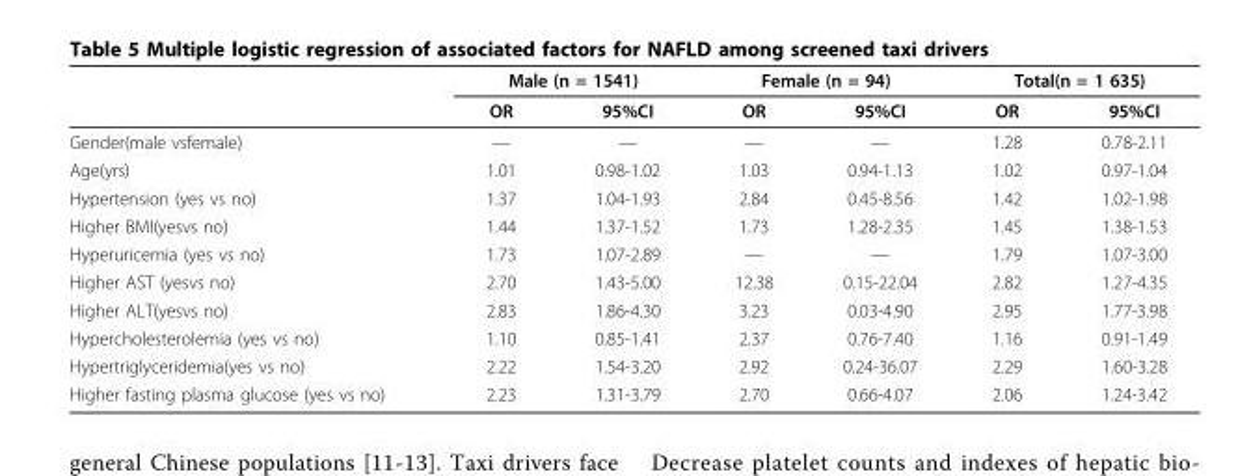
<table><thead><tr><td rowspan="2"></td><td colspan="2">Male (n = 1541)</td><td colspan="2">Female (n = 94)</td><td colspan="2">Total(n = 1 635)</td></tr><tr><td>OR</td><td>95%CI</td><td>OR</td><td>95%CI</td><td>OR</td><td>95%CI</td></tr></thead><tbody><tr><td>Gender(male vsfemale)</td><td>—</td><td>—</td><td>—</td><td>—</td><td>1.28</td><td>0.78-2.11</td></tr><tr><td>Age(yrs)</td><td>1.01</td><td>0.98-1.02</td><td>1.03</td><td>0.94-1.13</td><td>1.02</td><td>0.97-1.04</td></tr><tr><td>Hypertension (yes vs no)</td><td>1.37</td><td>1.04-1.93</td><td>2.84</td><td>0.45-8.56</td><td>1.42</td><td>1.02-1.98</td></tr><tr><td>Higher BMI(yesvs no)</td><td>1.44</td><td>1.37-1.52</td><td>1.73</td><td>1.28-2.35</td><td>1.45</td><td>1.38-1.53</td></tr><tr><td>Hyperuricemia (yes vs no)</td><td>1.73</td><td>1.07-2.89</td><td>—</td><td>—</td><td>1.79</td><td>1.07-3.00</td></tr><tr><td>Higher AST (yesvs no)</td><td>2.70</td><td>1.43-5.00</td><td>12.38</td><td>0.15-22.04</td><td>2.82</td><td>1.27-4.35</td></tr><tr><td>Higher ALT(yesvs no)</td><td>2.83</td><td>1.86-4.30</td><td>3.23</td><td>0.03-4.90</td><td>2.95</td><td>1.77-3.98</td></tr><tr><td>Hypercholesterolemia (yes vs no)</td><td>1.10</td><td>0.85-1.41</td><td>2.37</td><td>0.76-7.40</td><td>1.16</td><td>0.91-1.49</td></tr><tr><td>Hypertriglyceridemia(yes vs no)</td><td>2.22</td><td>1.54-3.20</td><td>2.92</td><td>0.24-36.07</td><td>2.29</td><td>1.60-3.28</td></tr><tr><td>Higher fasting plasma glucose (yes vs no)</td><td>2.23</td><td>1.31-3.79</td><td>2.70</td><td>0.66-4.07</td><td>2.06</td><td>1.24-3.42</td></tr></tbody></table>